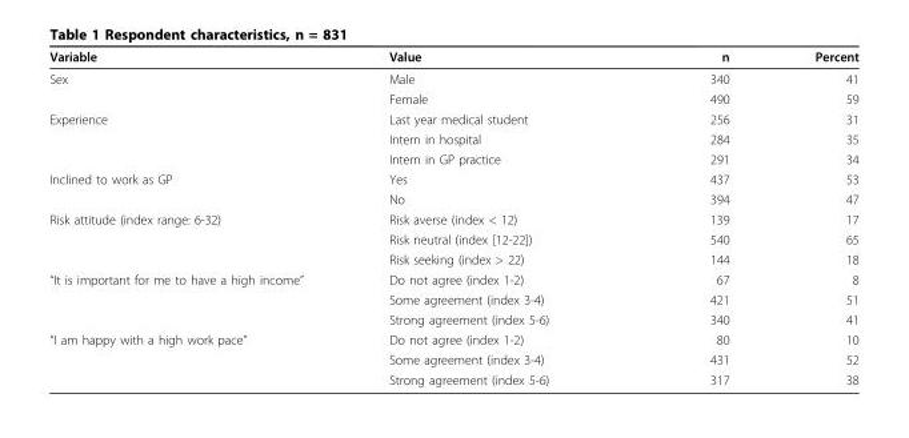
<table><thead><tr><td>Variable</td><td>Value</td><td>n</td><td>Percent</td></tr></thead><tbody><tr><td rowspan="2">Sex</td><td>Male</td><td>340</td><td>41</td></tr><tr><td>Female</td><td>490</td><td>59</td></tr><tr><td rowspan="3">Experience</td><td>Last year medical student</td><td>256</td><td>31</td></tr><tr><td>Intern in hospital</td><td>284</td><td>35</td></tr><tr><td>Intern in GP practice</td><td>291</td><td>34</td></tr><tr><td rowspan="2">Inclined to work as GP</td><td>Yes</td><td>437</td><td>53</td></tr><tr><td>No</td><td>394</td><td>47</td></tr><tr><td rowspan="3">Risk attitude (index range: 6-32)</td><td>Risk averse (index &lt; 12)</td><td>139</td><td>17</td></tr><tr><td>Risk neutral (index [12-22])</td><td>540</td><td>65</td></tr><tr><td>Risk seeking (index &gt; 22)</td><td>144</td><td>18</td></tr><tr><td rowspan="3">“It is important for me to have a high income”</td><td>Do not agree (index 1-2)</td><td>67</td><td>8</td></tr><tr><td>Some agreement (index 3-4)</td><td>421</td><td>51</td></tr><tr><td>Strong agreement (index 5-6)</td><td>340</td><td>41</td></tr><tr><td rowspan="3">“I am happy with a high work pace”</td><td>Do not agree (index 1-2)</td><td>80</td><td>10</td></tr><tr><td>Some agreement (index 3-4)</td><td>431</td><td>52</td></tr><tr><td>Strong agreement (index 5-6)</td><td>317</td><td>38</td></tr></tbody></table>